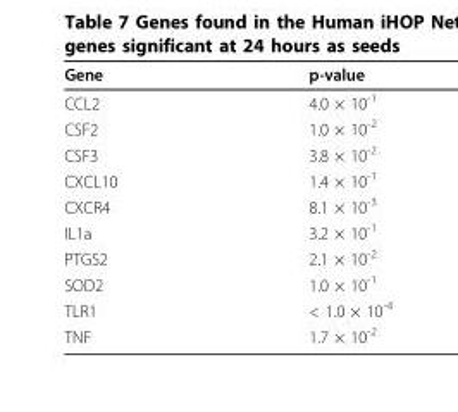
<table><thead><tr><td>Gene</td><td>p-value</td></tr></thead><tbody><tr><td>CCL2</td><td>4.0 × 10<sup>-1</sup></td></tr><tr><td>CSF2</td><td>1.0 × 10<sup>-2</sup></td></tr><tr><td>CSF3</td><td>3.8 × 10<sup>-2</sup></td></tr><tr><td>CXCL10</td><td>1.4 × 10<sup>-1</sup></td></tr><tr><td>CXCR4</td><td>8.1 × 10<sup>-3</sup></td></tr><tr><td>IL1a</td><td>3.2 × 10<sup>-1</sup></td></tr><tr><td>PTGS2</td><td>2.1 × 10<sup>-2</sup></td></tr><tr><td>SOD2</td><td>1.0 × 10<sup>-1</sup></td></tr><tr><td>TLR1</td><td>&lt; 1.0 × 10<sup>-4</sup></td></tr><tr><td>TNF</td><td>1.7 × 10<sup>-2</sup></td></tr></tbody></table>